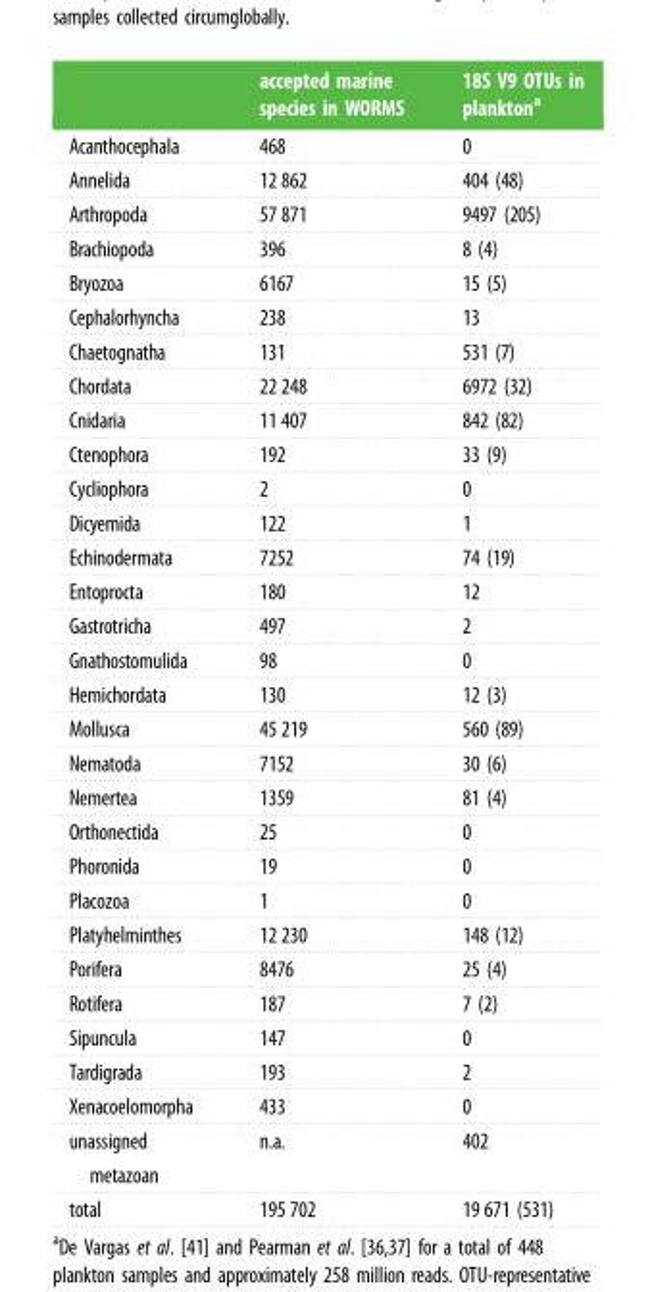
<table><thead><tr><td></td><td>accepted marine species in WORMS</td><td>18S V9 OTUs in plankton<sup>a</sup></td></tr></thead><tbody><tr><td>Acanthocephala</td><td>468</td><td>0</td></tr><tr><td>Annelida</td><td>12 862</td><td>404 (48)</td></tr><tr><td>Arthropoda</td><td>57 871</td><td>9497 (205)</td></tr><tr><td>Brachiopoda</td><td>396</td><td>8 (4)</td></tr><tr><td>Bryozoa</td><td>6167</td><td>15 (5)</td></tr><tr><td>Cephalorhyncha</td><td>238</td><td>13</td></tr><tr><td>Chaetognatha</td><td>131</td><td>531 (7)</td></tr><tr><td>Chordata</td><td>22 248</td><td>6972 (32)</td></tr><tr><td>Cnidaria</td><td>11 407</td><td>842 (82)</td></tr><tr><td>Ctenophora</td><td>192</td><td>33 (9)</td></tr><tr><td>Cycliophora</td><td>2</td><td>0</td></tr><tr><td>Dicyemida</td><td>122</td><td>1</td></tr><tr><td>Echinodermata</td><td>7252</td><td>74 (19)</td></tr><tr><td>Entoprocta</td><td>180</td><td>12</td></tr><tr><td>Gastrotricha</td><td>497</td><td>2</td></tr><tr><td>Gnathostomulida</td><td>98</td><td>0</td></tr><tr><td>Hemichordata</td><td>130</td><td>12 (3)</td></tr><tr><td>Mollusca</td><td>45 219</td><td>560 (89)</td></tr><tr><td>Nematoda</td><td>7152</td><td>30 (6)</td></tr><tr><td>Nemertea</td><td>1359</td><td>81 (4)</td></tr><tr><td>Orthonectida</td><td>25</td><td>0</td></tr><tr><td>Phoronida</td><td>19</td><td>0</td></tr><tr><td>Placozoa</td><td>1</td><td>0</td></tr><tr><td>Platyhelminthes</td><td>12 230</td><td>148 (12)</td></tr><tr><td>Porifera</td><td>8476</td><td>25 (4)</td></tr><tr><td>Rotifera</td><td>187</td><td>7 (2)</td></tr><tr><td>Sipuncula</td><td>147</td><td>0</td></tr><tr><td>Tardigrada</td><td>193</td><td>2</td></tr><tr><td>Xenacoelomorpha</td><td>433</td><td>0</td></tr><tr><td>unassigned metazoan</td><td>n.a.</td><td>402</td></tr><tr><td>total</td><td>195 702</td><td>19 671 (531)</td></tr></tbody></table>